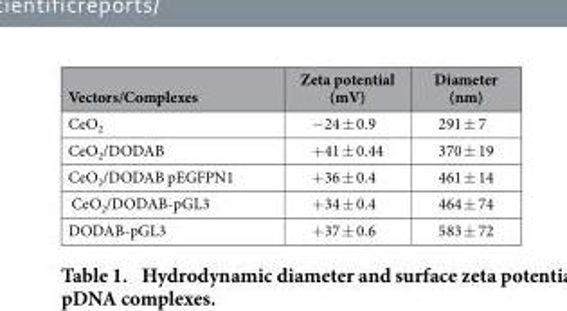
<table><thead><tr><td>Vectors/Complexes</td><td>Zeta potential (mV)</td><td>Diameter (nm)</td></tr></thead><tbody><tr><td>CeO<sub>2</sub></td><td>− 24 ± 0.9</td><td>291 ± 7</td></tr><tr><td>CeO<sub>2</sub>/DODAB</td><td>+ 41 ± 0.44</td><td>370 ± 19</td></tr><tr><td>CeO<sub>2</sub>/DODAB pEGFPN1</td><td>+ 36 ± 0.4</td><td>461 ± 14</td></tr><tr><td>CeO<sub>2</sub>/DODAB-pGL3</td><td>+ 34 ± 0.4</td><td>464 ± 74</td></tr><tr><td>DODAB-pGL3</td><td>+ 37 ± 0.6</td><td>583 ± 72</td></tr></tbody></table>